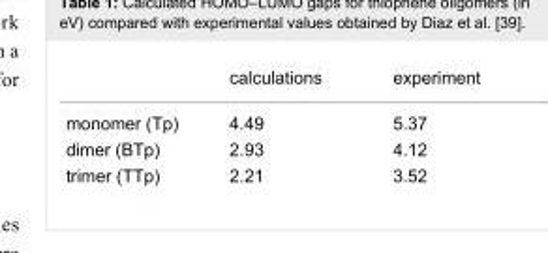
<table><thead><tr><td></td><td>calculations</td><td>experiment</td></tr></thead><tbody><tr><td>monomer (Tp)</td><td>4.49</td><td>5.37</td></tr><tr><td>dimer (BTp)</td><td>2.93</td><td>4.12</td></tr><tr><td>trimer (TTp)</td><td>2.21</td><td>3.52</td></tr></tbody></table>